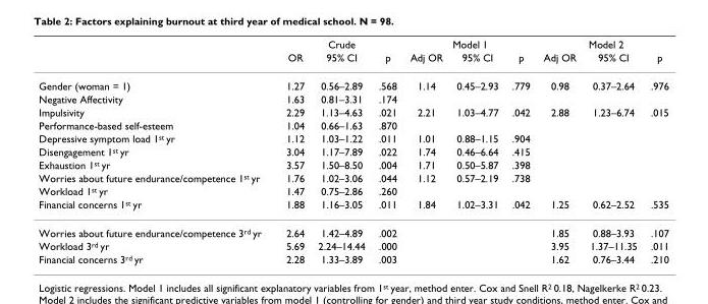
<table><thead><tr><td rowspan="2"></td><td colspan="3">Crude</td><td colspan="3">Model 1</td><td colspan="3">Model 2</td></tr><tr><td>OR</td><td>95% CI</td><td>p</td><td>Adj OR</td><td>95% CI</td><td>p</td><td>Adj OR</td><td>95% CI</td><td>p</td></tr></thead><tbody><tr><td>Gender (woman = 1)</td><td>1.27</td><td>0.56–2.89</td><td>.568</td><td>1.14</td><td>0.45–2.93</td><td>.779</td><td>0.98</td><td>0.37–2.64</td><td>.976</td></tr><tr><td>Negative Affectivity</td><td>1.63</td><td>0.81–3.31</td><td>.174</td><td></td><td></td><td></td><td></td><td></td><td></td></tr><tr><td>Impulsivity</td><td>2.29</td><td>1.13–4.63</td><td>.021</td><td>2.21</td><td>1.03–4.77</td><td>.042</td><td>2.88</td><td>1.23–6.74</td><td>.015</td></tr><tr><td>Performance-based self-esteem</td><td>1.04</td><td>0.66–1.63</td><td>.870</td><td></td><td></td><td></td><td></td><td></td><td></td></tr><tr><td>Depressive symptom load 1<sup>st</sup> yr</td><td>1.12</td><td>1.03–1.22</td><td>.011</td><td>1.01</td><td>0.88–1.15</td><td>.904</td><td></td><td></td><td></td></tr><tr><td>Disengagement 1<sup>st</sup> yr</td><td>3.04</td><td>1.17–7.89</td><td>.022</td><td>1.74</td><td>0.46–6.64</td><td>.415</td><td></td><td></td><td></td></tr><tr><td>Exhaustion 1<sup>st</sup> yr</td><td>3.57</td><td>1.50–8.50</td><td>.004</td><td>1.71</td><td>0.50–5.87</td><td>.398</td><td></td><td></td><td></td></tr><tr><td>Worries about future endurance/competence 1<sup>st</sup> yr</td><td>1.76</td><td>1.02–3.06</td><td>.044</td><td>1.12</td><td>0.57–2.19</td><td>.738</td><td></td><td></td><td></td></tr><tr><td>Workload 1<sup>st</sup> yr</td><td>1.47</td><td>0.75–2.86</td><td>.260</td><td></td><td></td><td></td><td></td><td></td><td></td></tr><tr><td>Financial concerns 1<sup>st</sup> yr</td><td>1.88</td><td>1.16–3.05</td><td>.011</td><td>1.84</td><td>1.02–3.31</td><td>.042</td><td>1.25</td><td>0.62–2.52</td><td>.535</td></tr><tr><td>Worries about future endurance/competence 3<sup>rd</sup> yr</td><td>2.64</td><td>1.42–4.89</td><td>.002</td><td></td><td></td><td></td><td>1.85</td><td>0.88–3.93</td><td>.107</td></tr><tr><td>Workload 3<sup>rd</sup> yr</td><td>5.69</td><td>2.24–14.44</td><td>.000</td><td></td><td></td><td></td><td>3.95</td><td>1.37–11.35</td><td>.011</td></tr><tr><td>Financial concerns 3<sup>rd</sup> yr</td><td>2.28</td><td>1.33–3.89</td><td>.003</td><td></td><td></td><td></td><td>1.62</td><td>0.76–3.44</td><td>.210</td></tr></tbody></table>